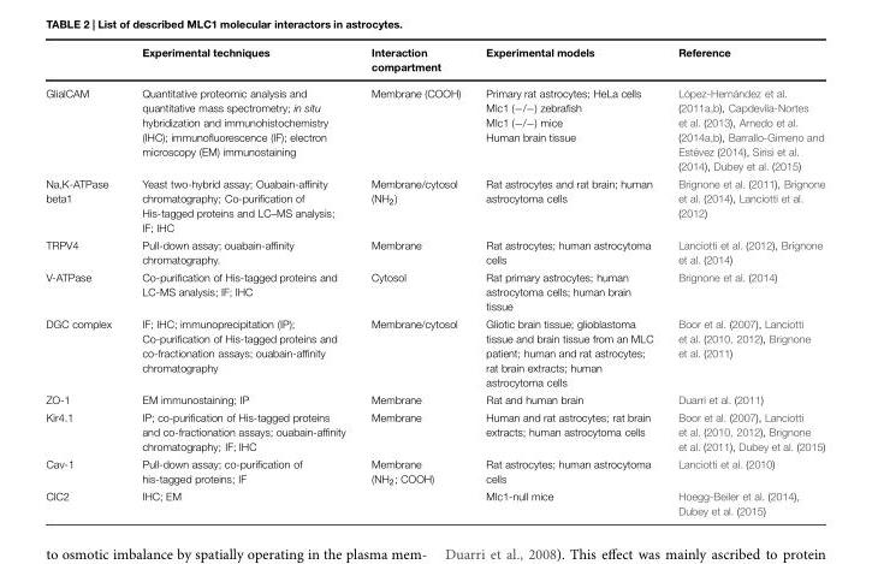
<table><thead><tr><td></td><td>Experimental techniques</td><td>Interaction compartment</td><td>Experimental models</td><td>Reference</td></tr></thead><tbody><tr><td>GlialCAM</td><td>Quantitative proteomic analysis and quantitative mass spectrometry; in situ hybridization and immunohistochemistry (IHC); immunofluorescence (IF); electron microscopy (EM) immunostaining</td><td>Membrane (COOH)</td><td>Primary rat astrocytes; HeLa cells Mlc1 (−/−) zebrafish Mlc1 (−/−) mice Human brain tissue</td><td>López-Hernández et al. (2011a,b), Capdevila-Nortes et al. (2013), Arnedo et al. (2014a,b), Barrallo-Gimeno and Estévez (2014), Sirisi et al. (2014), Dubey et al. (2015)</td></tr><tr><td>Na,K-ATPase beta1</td><td>Yeast two-hybrid assay; Ouabain-affinity chromatography; Co-purification of His-tagged proteins and LC–MS analysis; IF; IHC</td><td>Membrane/cytosol (NH<sub>2</sub>)</td><td>Rat astrocytes and rat brain; human astrocytoma cells</td><td>Brignone et al. (2011), Brignone et al. (2014), Lanciotti et al. (2012)</td></tr><tr><td>TRPV4</td><td>Pull-down assay; ouabain-affinity chromatography.</td><td>Membrane</td><td>Rat astrocytes; human astrocytoma cells</td><td>Lanciotti et al. (2012), Brignone et al. (2014)</td></tr><tr><td>V-ATPase</td><td>Co-purification of His-tagged proteins and LC-MS analysis; IF; IHC</td><td>Cytosol</td><td>Rat primary astrocytes; human astrocytoma cells; human brain tissue</td><td>Brignone et al. (2014)</td></tr><tr><td>DGC complex</td><td>IF; IHC; immunoprecipitation (IP); Co-purification of His-tagged proteins and co-fractionation assays; ouabain-affinity chromatography</td><td>Membrane/cytosol</td><td>Gliotic brain tissue; glioblastoma tissue and brain tissue from an MLC patient; human and rat astrocytes; rat brain extracts; human astrocytoma cells</td><td>Boor et al. (2007), Lanciotti et al. (2010, 2012), Brignone et al. (2011)</td></tr><tr><td>ZO-1</td><td>EM immunostaining; IP</td><td>Membrane</td><td>Rat and human brain</td><td>Duarri et al. (2011)</td></tr><tr><td>Kir4.1</td><td>IP; co-purification of His-tagged proteins and co-fractionation assays; ouabain-affinity chromatography; IF; IHC</td><td>Membrane</td><td>Human and rat astrocytes; rat brain extracts; human astrocytoma cells</td><td>Boor et al. (2007), Lanciotti et al. (2010, 2012), Brignone et al. (2011), Dubey et al. (2015)</td></tr><tr><td>Cav-1</td><td>Pull-down assay; co-purification of his-tagged proteins; IF</td><td>Membrane (NH<sub>2</sub>; COOH)</td><td>Rat astrocytes; human astrocytoma cells</td><td>Lanciotti et al. (2010)</td></tr><tr><td>ClC2</td><td>IHC; EM</td><td></td><td>Mlc1-null mice</td><td>Hoegg-Beiler et al. (2014), Dubey et al. (2015)</td></tr></tbody></table>